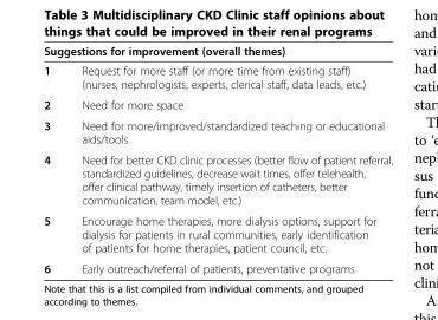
<table><thead><tr><td colspan="2">Suggestions for improvement (overall themes)</td></tr><tr><td>1</td><td>Request for more staff (or more time from existing staff) (nurses, nephrologists, experts, clerical staff, data leads, etc.)</td></tr></thead><tbody><tr><td>2</td><td>Need for more space</td></tr><tr><td>3</td><td>Need for more/improved/standardized teaching or educational aids/tools</td></tr><tr><td>4</td><td>Need for better CKD clinic processes (better flow of patient referral, standardized guidelines, decrease wait times, offer telehealth, offer clinical pathway, timely insertion of catheters, better communication, team model, etc.)</td></tr><tr><td>5</td><td>Encourage home therapies, more dialysis options, support for dialysis for patients in rural communities, early identification of patients for home therapies, patient council, etc.</td></tr><tr><td>6</td><td>Early outreach/referral of patients, preventative programs</td></tr></tbody></table>